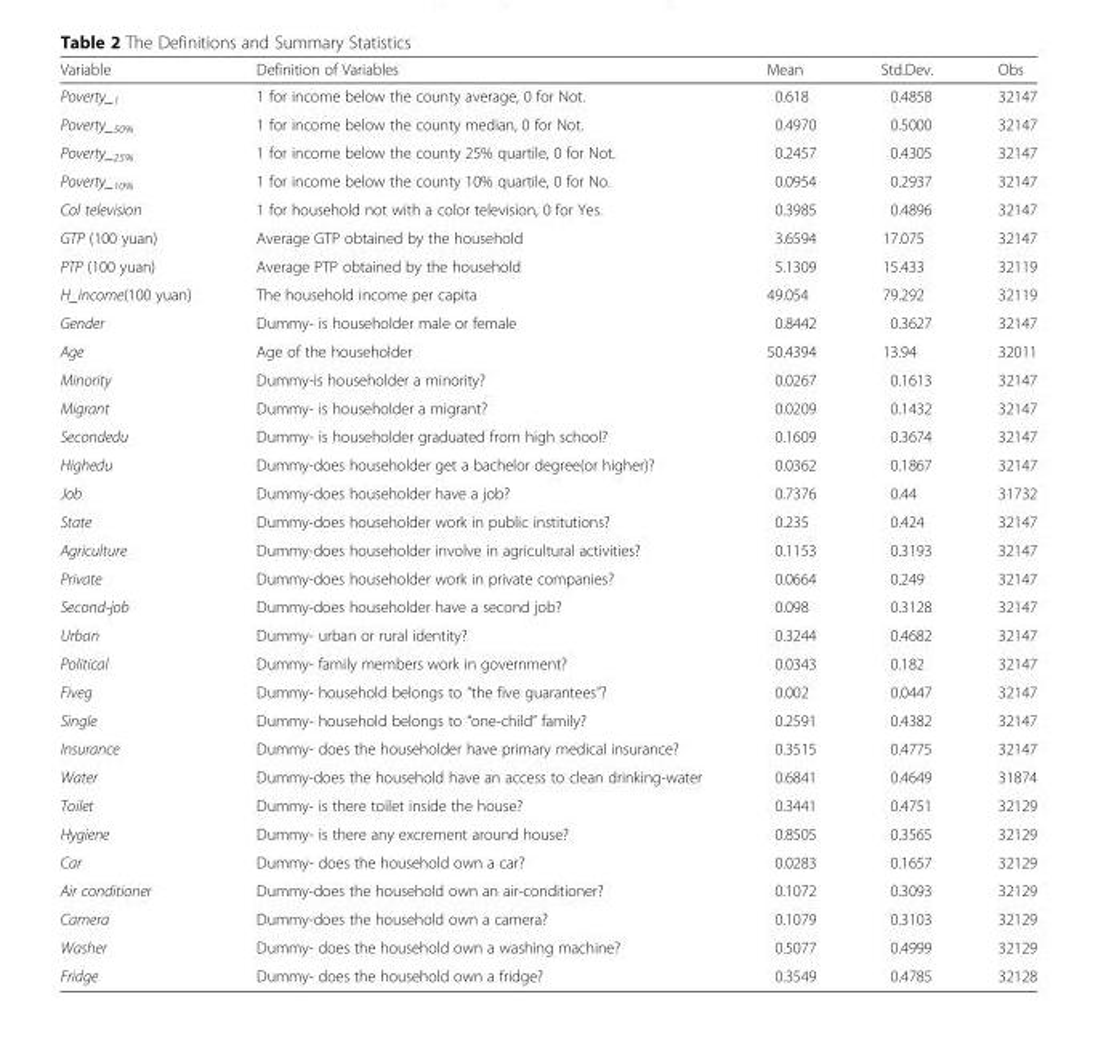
<table><thead><tr><td>Variable</td><td>Definition of Variables</td><td>Mean</td><td>Std.Dev.</td><td>Obs</td></tr></thead><tbody><tr><td>Poverty_<sub>1</sub></td><td>1 for income below the county average, 0 for Not.</td><td>0.618</td><td>0.4858</td><td>32147</td></tr><tr><td>Poverty_<sub>50%</sub></td><td>1 for income below the county median, 0 for Not.</td><td>0.4970</td><td>0.5000</td><td>32147</td></tr><tr><td>Poverty_<sub>25%</sub></td><td>1 for income below the county 25% quartile, 0 for Not.</td><td>0.2457</td><td>0.4305</td><td>32147</td></tr><tr><td>Poverty_<sub>10%</sub></td><td>1 for income below the county 10% quartile, 0 for No.</td><td>0.0954</td><td>0.2937</td><td>32147</td></tr><tr><td>Col television</td><td>1 for household not with a color television, 0 for Yes.</td><td>0.3985</td><td>0.4896</td><td>32147</td></tr><tr><td>GTP (100 yuan)</td><td>Average GTP obtained by the household</td><td>3.6594</td><td>17.075</td><td>32147</td></tr><tr><td>PTP (100 yuan)</td><td>Average PTP obtained by the household</td><td>5.1309</td><td>15.433</td><td>32119</td></tr><tr><td>H_income(100 yuan)</td><td>The household income per capita</td><td>49.054</td><td>79.292</td><td>32119</td></tr><tr><td>Gender</td><td>Dummy- is householder male or female</td><td>0.8442</td><td>0.3627</td><td>32147</td></tr><tr><td>Age</td><td>Age of the householder</td><td>50.4394</td><td>13.94</td><td>32011</td></tr><tr><td>Minority</td><td>Dummy-is householder a minority?</td><td>0.0267</td><td>0.1613</td><td>32147</td></tr><tr><td>Migrant</td><td>Dummy- is householder a migrant?</td><td>0.0209</td><td>0.1432</td><td>32147</td></tr><tr><td>Secondedu</td><td>Dummy- is householder graduated from high school?</td><td>0.1609</td><td>0.3674</td><td>32147</td></tr><tr><td>Highedu</td><td>Dummy-does householder get a bachelor degree(or higher)?</td><td>0.0362</td><td>0.1867</td><td>32147</td></tr><tr><td>Job</td><td>Dummy-does householder have a job?</td><td>0.7376</td><td>0.44</td><td>31732</td></tr><tr><td>State</td><td>Dummy-does householder work in public institutions?</td><td>0.235</td><td>0.424</td><td>32147</td></tr><tr><td>Agriculture</td><td>Dummy-does householder involve in agricultural activities?</td><td>0.1153</td><td>0.3193</td><td>32147</td></tr><tr><td>Private</td><td>Dummy-does householder work in private companies?</td><td>0.0664</td><td>0.249</td><td>32147</td></tr><tr><td>Second-job</td><td>Dummy-does householder have a second job?</td><td>0.098</td><td>0.3128</td><td>32147</td></tr><tr><td>Urban</td><td>Dummy- urban or rural identity?</td><td>0.3244</td><td>0.4682</td><td>32147</td></tr><tr><td>Political</td><td>Dummy- family members work in government?</td><td>0.0343</td><td>0.182</td><td>32147</td></tr><tr><td>Fiveg</td><td>Dummy- household belongs to “the five guarantees”?</td><td>0.002</td><td>0.0447</td><td>32147</td></tr><tr><td>Single</td><td>Dummy- household belongs to “one-child” family?</td><td>0.2591</td><td>0.4382</td><td>32147</td></tr><tr><td>Insurance</td><td>Dummy- does the householder have primary medical insurance?</td><td>0.3515</td><td>0.4775</td><td>32147</td></tr><tr><td>Water</td><td>Dummy-does the household have an access to clean drinking-water</td><td>0.6841</td><td>0.4649</td><td>31874</td></tr><tr><td>Toilet</td><td>Dummy- is there toilet inside the house?</td><td>0.3441</td><td>0.4751</td><td>32129</td></tr><tr><td>Hygiene</td><td>Dummy- is there any excrement around house?</td><td>0.8505</td><td>0.3565</td><td>32129</td></tr><tr><td>Car</td><td>Dummy- does the household own a car?</td><td>0.0283</td><td>0.1657</td><td>32129</td></tr><tr><td>Air conditioner</td><td>Dummy-does the household own an air-conditioner?</td><td>0.1072</td><td>0.3093</td><td>32129</td></tr><tr><td>Camera</td><td>Dummy-does the household own a camera?</td><td>0.1079</td><td>0.3103</td><td>32129</td></tr><tr><td>Washer</td><td>Dummy- does the household own a washing machine?</td><td>0.5077</td><td>0.4999</td><td>32129</td></tr><tr><td>Fridge</td><td>Dummy- does the household own a fridge?</td><td>0.3549</td><td>0.4785</td><td>32128</td></tr></tbody></table>